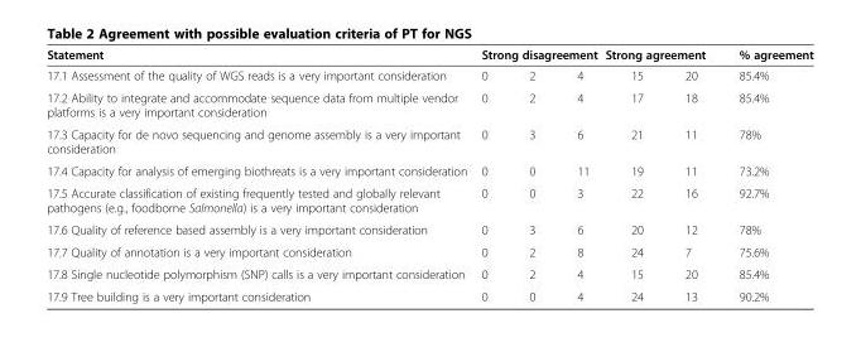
<table><thead><tr><td rowspan="2">Statement 17.1 Assessment of the quality of WGS reads is a very important consideration</td><td colspan="5">Strong disagreement Strong agreement</td><td rowspan="2">% agreement 85.4%</td></tr><tr><td>0</td><td>2</td><td>4</td><td>15</td><td>20</td></tr></thead><tbody><tr><td>17.2 Ability to integrate and accommodate sequence data from multiple vendor platforms is a very important consideration</td><td>0</td><td>2</td><td>4</td><td>17</td><td>18</td><td>85.4%</td></tr><tr><td>17.3 Capacity for de novo sequencing and genome assembly is a very important consideration</td><td>0</td><td>3</td><td>6</td><td>21</td><td>11</td><td>78%</td></tr><tr><td>17.4 Capacity for analysis of emerging biothreats is a very important consideration</td><td>0</td><td>0</td><td>11</td><td>19</td><td>11</td><td>73.2%</td></tr><tr><td>17.5 Accurate classification of existing frequently tested and globally relevant pathogens (e.g., foodborne Salmonella) is a very important consideration</td><td>0</td><td>0</td><td>3</td><td>22</td><td>16</td><td>92.7%</td></tr><tr><td>17.6 Quality of reference based assembly is a very important consideration</td><td>0</td><td>3</td><td>6</td><td>20</td><td>12</td><td>78%</td></tr><tr><td>17.7 Quality of annotation is a very important consideration</td><td>0</td><td>2</td><td>8</td><td>24</td><td>7</td><td>75.6%</td></tr><tr><td>17.8 Single nucleotide polymorphism (SNP) calls is a very important consideration</td><td>0</td><td>2</td><td>4</td><td>15</td><td>20</td><td>85.4%</td></tr><tr><td>17.9 Tree building is a very important consideration</td><td>0</td><td>0</td><td>4</td><td>24</td><td>13</td><td>90.2%</td></tr></tbody></table>